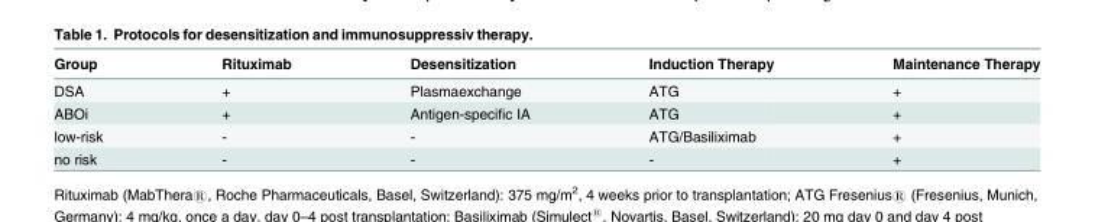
<table><thead><tr><td>Group</td><td>Rituximab</td><td>Desensitization</td><td>Induction Therapy</td><td>Maintenance Therapy</td></tr></thead><tbody><tr><td>DSA</td><td>+</td><td>Plasmaexchange</td><td>ATG</td><td>+</td></tr><tr><td>ABOi</td><td>+</td><td>Antigen-specific IA</td><td>ATG</td><td>+</td></tr><tr><td>low-risk</td><td>-</td><td>-</td><td>ATG/Basiliximab</td><td>+</td></tr><tr><td>no risk</td><td>-</td><td>-</td><td>-</td><td>+</td></tr></tbody></table>